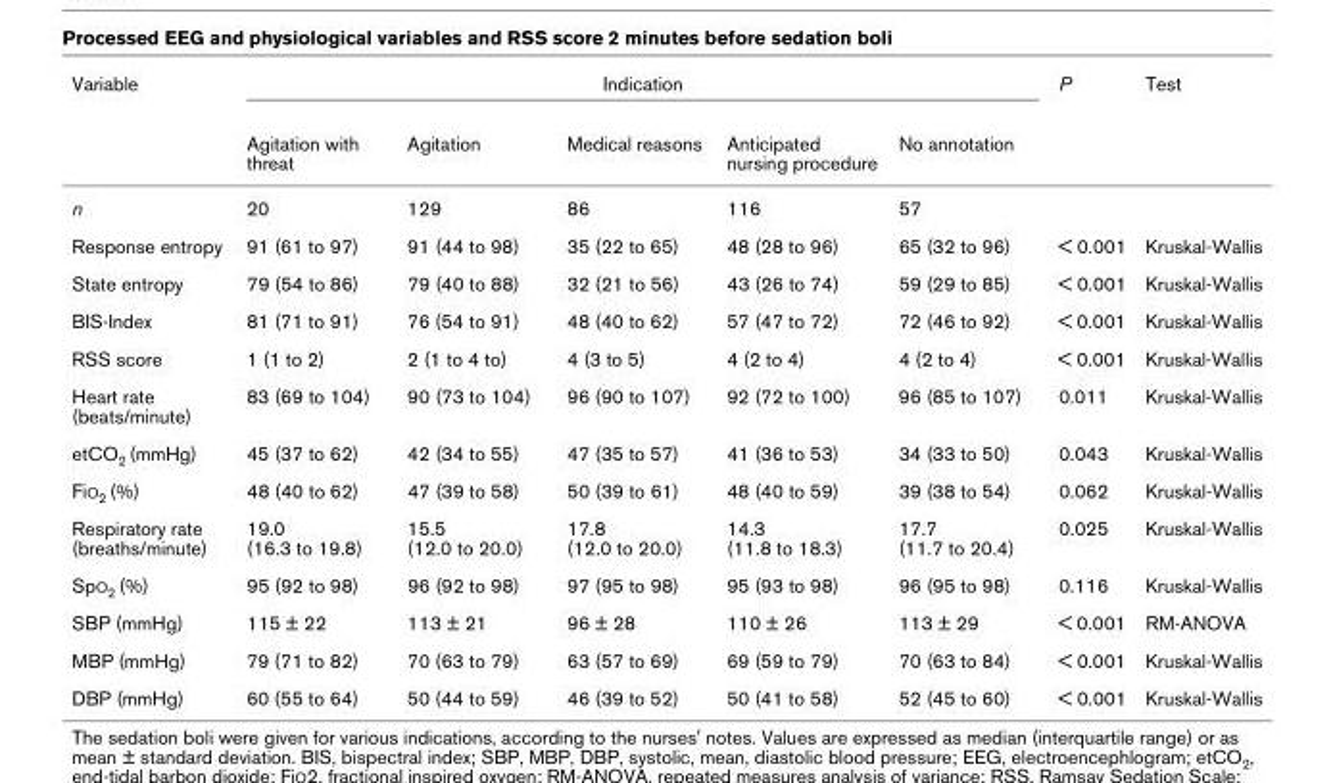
<table><thead><tr><td rowspan="2">Variable</td><td colspan="5">Indication</td><td rowspan="2">P</td><td rowspan="2">Test</td></tr><tr><td>Agitation with threat</td><td>Agitation</td><td>Medical reasons</td><td>Anticipated nursing procedure</td><td>No annotation</td></tr></thead><tbody><tr><td>n</td><td>20</td><td>129</td><td>86</td><td>116</td><td>57</td><td></td><td></td></tr><tr><td>Response entropy</td><td>91 (61 to 97)</td><td>91 (44 to 98)</td><td>35 (22 to 65)</td><td>48 (28 to 96)</td><td>65 (32 to 96)</td><td>&lt; 0.001</td><td>Kruskal-Wallis</td></tr><tr><td>State entropy</td><td>79 (54 to 86)</td><td>79 (40 to 88)</td><td>32 (21 to 56)</td><td>43 (26 to 74)</td><td>59 (29 to 85)</td><td>&lt; 0.001</td><td>Kruskal-Wallis</td></tr><tr><td>BIS-Index</td><td>81 (71 to 91)</td><td>76 (54 to 91)</td><td>48 (40 to 62)</td><td>57 (47 to 72)</td><td>72 (46 to 92)</td><td>&lt; 0.001</td><td>Kruskal-Wallis</td></tr><tr><td>RSS score</td><td>1 (1 to 2)</td><td>2 (1 to 4 to)</td><td>4 (3 to 5)</td><td>4 (2 to 4)</td><td>4 (2 to 4)</td><td>&lt; 0.001</td><td>Kruskal-Wallis</td></tr><tr><td>Heart rate (beats/minute)</td><td>83 (69 to 104)</td><td>90 (73 to 104)</td><td>96 (90 to 107)</td><td>92 (72 to 100)</td><td>96 (85 to 107)</td><td>0.011</td><td>Kruskal-Wallis</td></tr><tr><td>etCO<sub>2</sub> (mmHg)</td><td>45 (37 to 62)</td><td>42 (34 to 55)</td><td>47 (35 to 57)</td><td>41 (36 to 53)</td><td>34 (33 to 50)</td><td>0.043</td><td>Kruskal-Wallis</td></tr><tr><td>FiO<sub>2</sub> (%)</td><td>48 (40 to 62)</td><td>47 (39 to 58)</td><td>50 (39 to 61)</td><td>48 (40 to 59)</td><td>39 (38 to 54)</td><td>0.062</td><td>Kruskal-Wallis</td></tr><tr><td>Respiratory rate (breaths/minute)</td><td>19.0 (16.3 to 19.8)</td><td>15.5 (12.0 to 20.0)</td><td>17.8 (12.0 to 20.0)</td><td>14.3 (11.8 to 18.3)</td><td>17.7 (11.7 to 20.4)</td><td>0.025</td><td>Kruskal-Wallis</td></tr><tr><td>SpO<sub>2</sub> (%)</td><td>95 (92 to 98)</td><td>96 (92 to 98)</td><td>97 (95 to 98)</td><td>95 (93 to 98)</td><td>96 (95 to 98)</td><td>0.116</td><td>Kruskal-Wallis</td></tr><tr><td>SBP (mmHg)</td><td>115 ± 22</td><td>113 ± 21</td><td>96 ± 28</td><td>110 ± 26</td><td>113 ± 29</td><td>&lt; 0.001</td><td>RM-ANOVA</td></tr><tr><td>MBP (mmHg)</td><td>79 (71 to 82)</td><td>70 (63 to 79)</td><td>63 (57 to 69)</td><td>69 (59 to 79)</td><td>70 (63 to 84)</td><td>&lt; 0.001</td><td>Kruskal-Wallis</td></tr><tr><td>DBP (mmHg)</td><td>60 (55 to 64)</td><td>50 (44 to 59)</td><td>46 (39 to 52)</td><td>50 (41 to 58)</td><td>52 (45 to 60)</td><td>&lt; 0.001</td><td>Kruskal-Wallis</td></tr></tbody></table>